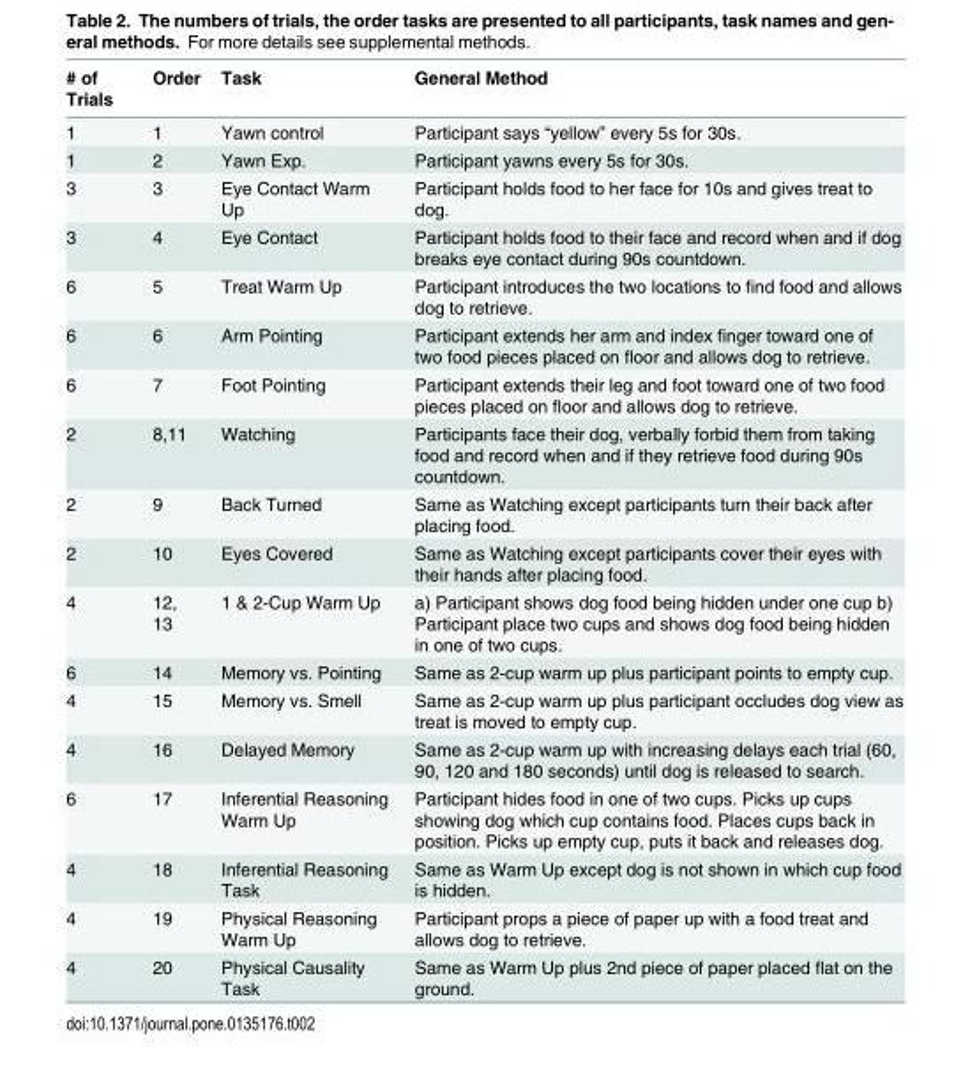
<table><thead><tr><td># of Trials</td><td>Order</td><td>Task</td><td>General Method</td></tr></thead><tbody><tr><td>1</td><td>1</td><td>Yawn control</td><td>Participant says “yellow” every 5s for 30s.</td></tr><tr><td>1</td><td>2</td><td>Yawn Exp.</td><td>Participant yawns every 5s for 30s.</td></tr><tr><td>3</td><td>3</td><td>Eye Contact Warm Up</td><td>Participant holds food to her face for 10s and gives treat to dog.</td></tr><tr><td>3</td><td>4</td><td>Eye Contact</td><td>Participant holds food to their face and record when and if dog breaks eye contact during 90s countdown.</td></tr><tr><td>6</td><td>5</td><td>Treat Warm Up</td><td>Participant introduces the two locations to find food and allows dog to retrieve.</td></tr><tr><td>6</td><td>6</td><td>Arm Pointing</td><td>Participant extends her arm and index finger toward one of two food pieces placed on floor and allows dog to retrieve.</td></tr><tr><td>6</td><td>7</td><td>Foot Pointing</td><td>Participant extends their leg and foot toward one of two food pieces placed on floor and allows dog to retrieve.</td></tr><tr><td>2</td><td>8,11</td><td>Watching</td><td>Participants face their dog, verbally forbid them from taking food and record when and if they retrieve food during 90s countdown.</td></tr><tr><td>2</td><td>9</td><td>Back Turned</td><td>Same as Watching except participants turn their back after placing food.</td></tr><tr><td>2</td><td>10</td><td>Eyes Covered</td><td>Same as Watching except participants cover their eyes with their hands after placing food.</td></tr><tr><td>4</td><td>12, 13</td><td>1 &amp; 2-Cup Warm Up</td><td>a) Participant shows dog food being hidden under one cup b) Participant place two cups and shows dog food being hidden in one of two cups.</td></tr><tr><td>6</td><td>14</td><td>Memory vs. Pointing</td><td>Same as 2-cup warm up plus participant points to empty cup.</td></tr><tr><td>4</td><td>15</td><td>Memory vs. Smell</td><td>Same as 2-cup warm up plus participant occludes dog view as treat is moved to empty cup.</td></tr><tr><td>4</td><td>16</td><td>Delayed Memory</td><td>Same as 2-cup warm up with increasing delays each trial (60, 90, 120 and 180 seconds) until dog is released to search.</td></tr><tr><td>6</td><td>17</td><td>Inferential Reasoning Warm Up</td><td>Participant hides food in one of two cups. Picks up cups showing dog which cup contains food. Places cups back in position. Picks up empty cup, puts it back and releases dog.</td></tr><tr><td>4</td><td>18</td><td>Inferential Reasoning Task</td><td>Same as Warm Up except dog is not shown in which cup food is hidden.</td></tr><tr><td>4</td><td>19</td><td>Physical Reasoning Warm Up</td><td>Participant props a piece of paper up with a food treat and allows dog to retrieve.</td></tr><tr><td>4</td><td>20</td><td>Physical Causality Task</td><td>Same as Warm Up plus 2nd piece of paper placed flat on the ground.</td></tr></tbody></table>